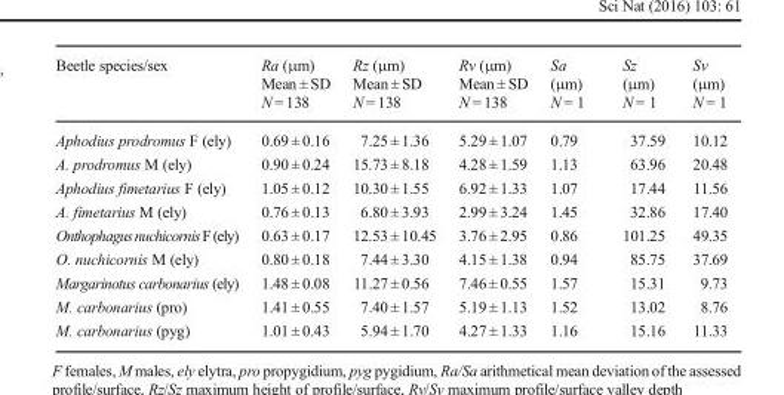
<table><thead><tr><td rowspan="3">Beetle species/sex</td><td rowspan="3">Ra (μm) Mean ± SD N = 138</td><td rowspan="3">Rz (μm) Mean ± SD N = 138</td><td rowspan="3">Rv (μm) Mean ± SD N = 138</td><td rowspan="3">Sa (μm) N = 1</td><td rowspan="3">Sz (μm) N = 1</td><td rowspan="3">Sv (μm) N = 1</td></tr><tr></tr><tr></tr></thead><tbody><tr><td>Aphodius prodromus F (ely)</td><td>0.69 ± 0.16</td><td>7.25 ± 1.36</td><td>5.29 ± 1.07</td><td>0.79</td><td>37.59</td><td>10.12</td></tr><tr><td>A. prodromus M (ely)</td><td>0.90 ± 0.24</td><td>15.73 ± 8.18</td><td>4.28 ± 1.59</td><td>1.13</td><td>63.96</td><td>20.48</td></tr><tr><td>Aphodius fimetarius F (ely)</td><td>1.05 ± 0.12</td><td>10.30 ± 1.55</td><td>6.92 ± 1.33</td><td>1.07</td><td>17.44</td><td>11.56</td></tr><tr><td>A. fimetarius M (ely)</td><td>0.76 ± 0.13</td><td>6.80 ± 3.93</td><td>2.99 ± 3.24</td><td>1.45</td><td>32.86</td><td>17.40</td></tr><tr><td>OnthophagusnuchicornisF(ely)</td><td>0.63 ± 0.17</td><td>12.53 ± 10.45</td><td>3.76 ± 2.95</td><td>0.86</td><td>101.25</td><td>49.35</td></tr><tr><td>O. nuchicornis M (ely)</td><td>0.80 ± 0.18</td><td>7.44 ± 3.30</td><td>4.15 ± 1.38</td><td>0.94</td><td>85.75</td><td>37.69</td></tr><tr><td>Margarinotus carbonarius (ely)</td><td>1.48 ± 0.08</td><td>11.27 ± 0.56</td><td>7.46 ± 0.55</td><td>1.57</td><td>15.31</td><td>9.73</td></tr><tr><td>M. carbonarius (pro)</td><td>1.41 ± 0.55</td><td>7.40 ± 1.57</td><td>5.19 ± 1.13</td><td>1.52</td><td>13.02</td><td>8.76</td></tr><tr><td>M. carbonarius (pyg)</td><td>1.01 ± 0.43</td><td>5.94 ± 1.70</td><td>4.27 ± 1.33</td><td>1.16</td><td>15.16</td><td>11.33</td></tr></tbody></table>